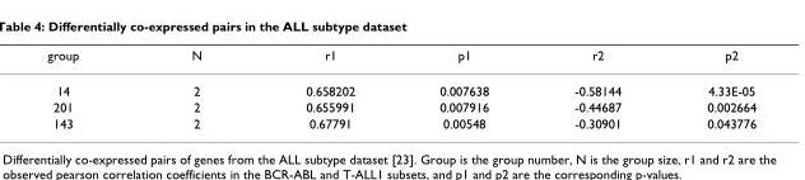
<table><thead><tr><td>group</td><td>N</td><td>r1</td><td>p1</td><td>r2</td><td>p2</td></tr></thead><tbody><tr><td>14</td><td>2</td><td>0.658202</td><td>0.007638</td><td>-0.58144</td><td>4.33E-05</td></tr><tr><td>201</td><td>2</td><td>0.655991</td><td>0.007916</td><td>-0.44687</td><td>0.002664</td></tr><tr><td>143</td><td>2</td><td>0.67791</td><td>0.00548</td><td>-0.30901</td><td>0.043776</td></tr></tbody></table>